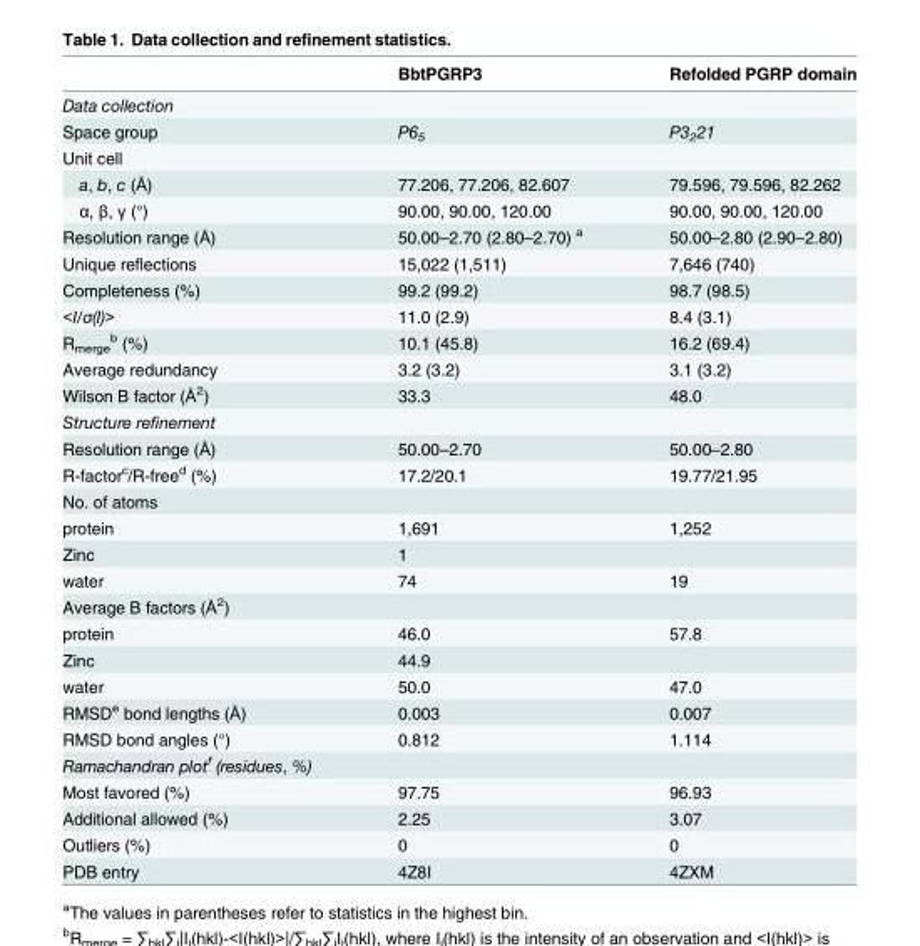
<table><thead><tr><td></td><td>BbtPGRP3</td><td>Refolded PGRP domain</td></tr></thead><tbody><tr><td colspan="3">Data collection</td></tr><tr><td>Space group</td><td>P6<sub>5</sub></td><td>P3<sub>2</sub>21</td></tr><tr><td colspan="3">Unit cell</td></tr><tr><td>a, b, c (Å)</td><td>77.206, 77.206, 82.607</td><td>79.596, 79.596, 82.262</td></tr><tr><td>α, β, γ (°)</td><td>90.00, 90.00, 120.00</td><td>90.00, 90.00, 120.00</td></tr><tr><td>Resolution range (Å)</td><td>50.00–2.70 (2.80–2.70) <sup>a</sup></td><td>50.00–2.80 (2.90–2.80)</td></tr><tr><td>Unique reflections</td><td>15,022 (1,511)</td><td>7,646 (740)</td></tr><tr><td>Completeness (%)</td><td>99.2 (99.2)</td><td>98.7 (98.5)</td></tr><tr><td>&lt;I/σ(I)&gt;</td><td>11.0 (2.9)</td><td>8.4 (3.1)</td></tr><tr><td>R<sub>merge</sub> <sup>b</sup> (%)</td><td>10.1 (45.8)</td><td>16.2 (69.4)</td></tr><tr><td>Average redundancy</td><td>3.2 (3.2)</td><td>3.1 (3.2)</td></tr><tr><td>Wilson B factor (Å<sup>2</sup>)</td><td>33.3</td><td>48.0</td></tr><tr><td colspan="3">Structure refinement</td></tr><tr><td>Resolution range (Å)</td><td>50.00–2.70</td><td>50.00–2.80</td></tr><tr><td>R-factor<sup>c</sup>/R-free<sup>d</sup> (%)</td><td>17.2/20.1</td><td>19.77/21.95</td></tr><tr><td colspan="3">No. of atoms</td></tr><tr><td>protein</td><td>1,691</td><td>1,252</td></tr><tr><td>Zinc</td><td>1</td><td></td></tr><tr><td>water</td><td>74</td><td>19</td></tr><tr><td colspan="3">Average B factors (Å<sup>2</sup>)</td></tr><tr><td>protein</td><td>46.0</td><td>57.8</td></tr><tr><td>Zinc</td><td>44.9</td><td></td></tr><tr><td>water</td><td>50.0</td><td>47.0</td></tr><tr><td>RMSD<sup>e</sup> bond lengths (Å)</td><td>0.003</td><td>0.007</td></tr><tr><td>RMSD bond angles (°)</td><td>0.812</td><td>1.114</td></tr><tr><td colspan="3">Ramachandran plot<sup>f</sup> (residues, %)</td></tr><tr><td>Most favored (%)</td><td>97.75</td><td>96.93</td></tr><tr><td>Additional allowed (%)</td><td>2.25</td><td>3.07</td></tr><tr><td>Outliers (%)</td><td>0</td><td>0</td></tr><tr><td>PDB entry</td><td>4Z8I</td><td>4ZXM</td></tr></tbody></table>